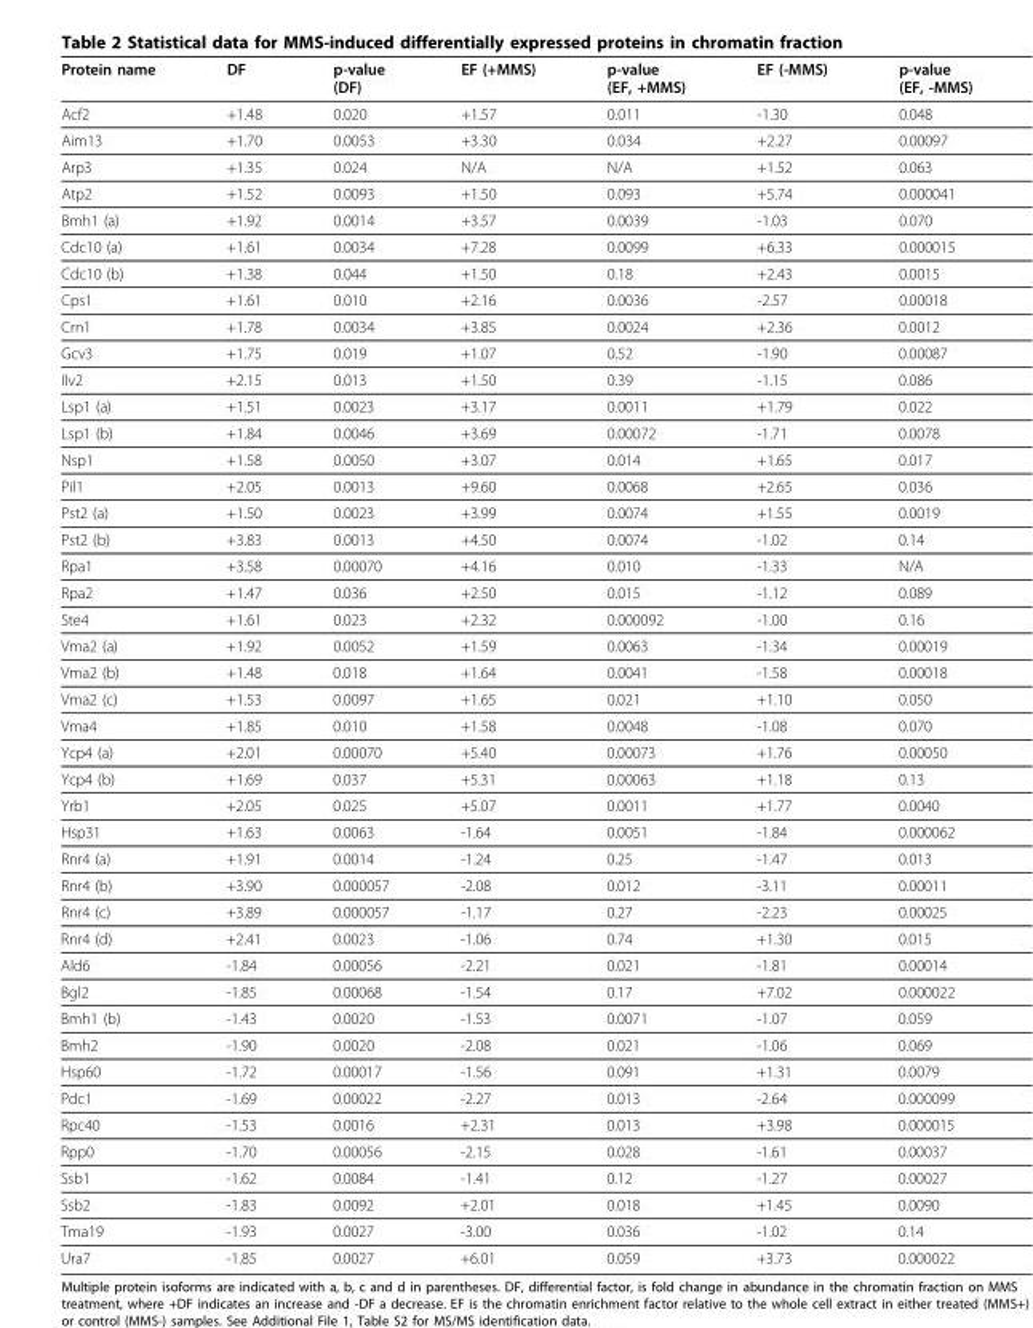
<table><thead><tr><td>Protein name</td><td>DF</td><td>p-value (DF)</td><td>EF (+MMS)</td><td>p-value (EF, +MMS)</td><td>EF (-MMS)</td><td>p-value (EF, -MMS)</td></tr></thead><tbody><tr><td>Acf2</td><td>+1.48</td><td>0.020</td><td>+1.57</td><td>0.011</td><td>-1.30</td><td>0.048</td></tr><tr><td>Aim13</td><td>+1.70</td><td>0.0053</td><td>+3.30</td><td>0.034</td><td>+2.27</td><td>0.00097</td></tr><tr><td>Arp3</td><td>+1.35</td><td>0.024</td><td>N/A</td><td>N/A</td><td>+1.52</td><td>0.063</td></tr><tr><td>Atp2</td><td>+1.52</td><td>0.0093</td><td>+1.50</td><td>0.093</td><td>+5.74</td><td>0.000041</td></tr><tr><td>Bmh1 (a)</td><td>+1.92</td><td>0.0014</td><td>+3.57</td><td>0.0039</td><td>-1.03</td><td>0.070</td></tr><tr><td>Cdc10 (a)</td><td>+1.61</td><td>0.0034</td><td>+7.28</td><td>0.0099</td><td>+6.33</td><td>0.000015</td></tr><tr><td>Cdc10 (b)</td><td>+1.38</td><td>0.044</td><td>+1.50</td><td>0.18</td><td>+2.43</td><td>0.0015</td></tr><tr><td>Cps1</td><td>+1.61</td><td>0.010</td><td>+2.16</td><td>0.0036</td><td>-2.57</td><td>0.00018</td></tr><tr><td>Crn1</td><td>+1.78</td><td>0.0034</td><td>+3.85</td><td>0.0024</td><td>+2.36</td><td>0.0012</td></tr><tr><td>Gcv3</td><td>+1.75</td><td>0.019</td><td>+1.07</td><td>0.52</td><td>-1.90</td><td>0.00087</td></tr><tr><td>Ilv2</td><td>+2.15</td><td>0.013</td><td>+1.50</td><td>0.39</td><td>-1.15</td><td>0.086</td></tr><tr><td>Lsp1 (a)</td><td>+1.51</td><td>0.0023</td><td>+3.17</td><td>0.0011</td><td>+1.79</td><td>0.022</td></tr><tr><td>Lsp1 (b)</td><td>+1.84</td><td>0.0046</td><td>+3.69</td><td>0.00072</td><td>-1.71</td><td>0.0078</td></tr><tr><td>Nsp1</td><td>+1.58</td><td>0.0050</td><td>+3.07</td><td>0.014</td><td>+1.65</td><td>0.017</td></tr><tr><td>Pil1</td><td>+2.05</td><td>0.0013</td><td>+9.60</td><td>0.0068</td><td>+2.65</td><td>0.036</td></tr><tr><td>Pst2 (a)</td><td>+1.50</td><td>0.0023</td><td>+3.99</td><td>0.0074</td><td>+1.55</td><td>0.0019</td></tr><tr><td>Pst2 (b)</td><td>+3.83</td><td>0.0013</td><td>+4.50</td><td>0.0074</td><td>-1.02</td><td>0.14</td></tr><tr><td>Rpa1</td><td>+3.58</td><td>0.00070</td><td>+4.16</td><td>0.010</td><td>-1.33</td><td>N/A</td></tr><tr><td>Rpa2</td><td>+1.47</td><td>0.036</td><td>+2.50</td><td>0.015</td><td>-1.12</td><td>0.089</td></tr><tr><td>Ste4</td><td>+1.61</td><td>0.023</td><td>+2.32</td><td>0.000092</td><td>-1.00</td><td>0.16</td></tr><tr><td>Vma2 (a)</td><td>+1.92</td><td>0.0052</td><td>+1.59</td><td>0.0063</td><td>-1.34</td><td>0.00019</td></tr><tr><td>Vma2 (b)</td><td>+1.48</td><td>0.018</td><td>+1.64</td><td>0.0041</td><td>-1.58</td><td>0.00018</td></tr><tr><td>Vma2 (c)</td><td>+1.53</td><td>0.0097</td><td>+1.65</td><td>0.021</td><td>+1.10</td><td>0.050</td></tr><tr><td>Vma4</td><td>+1.85</td><td>0.010</td><td>+1.58</td><td>0.0048</td><td>-1.08</td><td>0.070</td></tr><tr><td>Ycp4 (a)</td><td>+2.01</td><td>0.00070</td><td>+5.40</td><td>0.00073</td><td>+1.76</td><td>0.00050</td></tr><tr><td>Ycp4 (b)</td><td>+1.69</td><td>0.037</td><td>+5.31</td><td>0.00063</td><td>+1.18</td><td>0.13</td></tr><tr><td>Yrb1</td><td>+2.05</td><td>0.025</td><td>+5.07</td><td>0.0011</td><td>+1.77</td><td>0.0040</td></tr><tr><td>Hsp31</td><td>+1.63</td><td>0.0063</td><td>-1.64</td><td>0.0051</td><td>-1.84</td><td>0.000062</td></tr><tr><td>Rnr4 (a)</td><td>+1.91</td><td>0.0014</td><td>-1.24</td><td>0.25</td><td>-1.47</td><td>0.013</td></tr><tr><td>Rnr4 (b)</td><td>+3.90</td><td>0.000057</td><td>-2.08</td><td>0.012</td><td>-3.11</td><td>0.00011</td></tr><tr><td>Rnr4 (c)</td><td>+3.89</td><td>0.000057</td><td>-1.17</td><td>0.27</td><td>-2.23</td><td>0.00025</td></tr><tr><td>Rnr4 (d)</td><td>+2.41</td><td>0.0023</td><td>-1.06</td><td>0.74</td><td>+1.30</td><td>0.015</td></tr><tr><td>Ald6</td><td>-1.84</td><td>0.00056</td><td>-2.21</td><td>0.021</td><td>-1.81</td><td>0.00014</td></tr><tr><td>Bgl2</td><td>-1.85</td><td>0.00068</td><td>-1.54</td><td>0.17</td><td>+7.02</td><td>0.000022</td></tr><tr><td>Bmh1 (b)</td><td>-1.43</td><td>0.0020</td><td>-1.53</td><td>0.0071</td><td>-1.07</td><td>0.059</td></tr><tr><td>Bmh2</td><td>-1.90</td><td>0.0020</td><td>-2.08</td><td>0.021</td><td>-1.06</td><td>0.069</td></tr><tr><td>Hsp60</td><td>-1.72</td><td>0.00017</td><td>-1.56</td><td>0.091</td><td>+1.31</td><td>0.0079</td></tr><tr><td>Pdc1</td><td>-1.69</td><td>0.00022</td><td>-2.27</td><td>0.013</td><td>-2.64</td><td>0.000099</td></tr><tr><td>Rpc40</td><td>-1.53</td><td>0.0016</td><td>+2.31</td><td>0.013</td><td>+3.98</td><td>0.000015</td></tr><tr><td>Rpp0</td><td>-1.70</td><td>0.00056</td><td>-2.15</td><td>0.028</td><td>-1.61</td><td>0.00037</td></tr><tr><td>Ssb1</td><td>-1.62</td><td>0.0084</td><td>-1.41</td><td>0.12</td><td>-1.27</td><td>0.00027</td></tr><tr><td>Ssb2</td><td>-1.83</td><td>0.0092</td><td>+2.01</td><td>0.018</td><td>+1.45</td><td>0.0090</td></tr><tr><td>Tma19</td><td>-1.93</td><td>0.0027</td><td>-3.00</td><td>0.036</td><td>-1.02</td><td>0.14</td></tr><tr><td>Ura7</td><td>-1.85</td><td>0.0027</td><td>+6.01</td><td>0.059</td><td>+3.73</td><td>0.000022</td></tr></tbody></table>